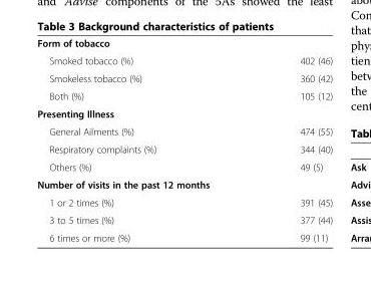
<table><tbody><tr><td colspan="2">Form of tobacco</td></tr><tr><td>Smoked tobacco (%)</td><td>402 (46)</td></tr><tr><td>Smokeless tobacco (%)</td><td>360 (42)</td></tr><tr><td>Both (%)</td><td>105 (12)</td></tr><tr><td colspan="2">Presenting Illness</td></tr><tr><td>General Ailments (%)</td><td>474 (55)</td></tr><tr><td>Respiratory complaints (%)</td><td>344 (40)</td></tr><tr><td>Others (%)</td><td>49 (5)</td></tr><tr><td colspan="2">Number of visits in the past 12 months</td></tr><tr><td>1 or 2 times (%)</td><td>391 (45)</td></tr><tr><td>3 to 5 times (%)</td><td>377 (44)</td></tr><tr><td>6 times or more (%)</td><td>99 (11)</td></tr></tbody></table>